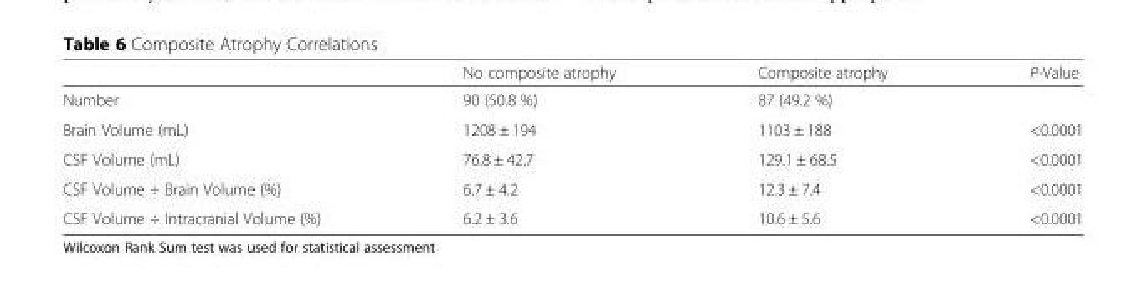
<table><thead><tr><td></td><td>No composite atrophy</td><td>Composite atrophy</td><td>P-Value</td></tr></thead><tbody><tr><td>Number</td><td>90 (50.8 %)</td><td>87 (49.2 %)</td><td></td></tr><tr><td>Brain Volume (mL)</td><td>1208 ± 194</td><td>1103 ± 188</td><td>&lt;0.0001</td></tr><tr><td>CSF Volume (mL)</td><td>76.8 ± 42.7</td><td>129.1 ± 68.5</td><td>&lt;0.0001</td></tr><tr><td>CSF Volume ÷ Brain Volume (%)</td><td>6.7 ± 4.2</td><td>12.3 ± 7.4</td><td>&lt;0.0001</td></tr><tr><td>CSF Volume ÷ Intracranial Volume (%)</td><td>6.2 ± 3.6</td><td>10.6 ± 5.6</td><td>&lt;0.0001</td></tr></tbody></table>